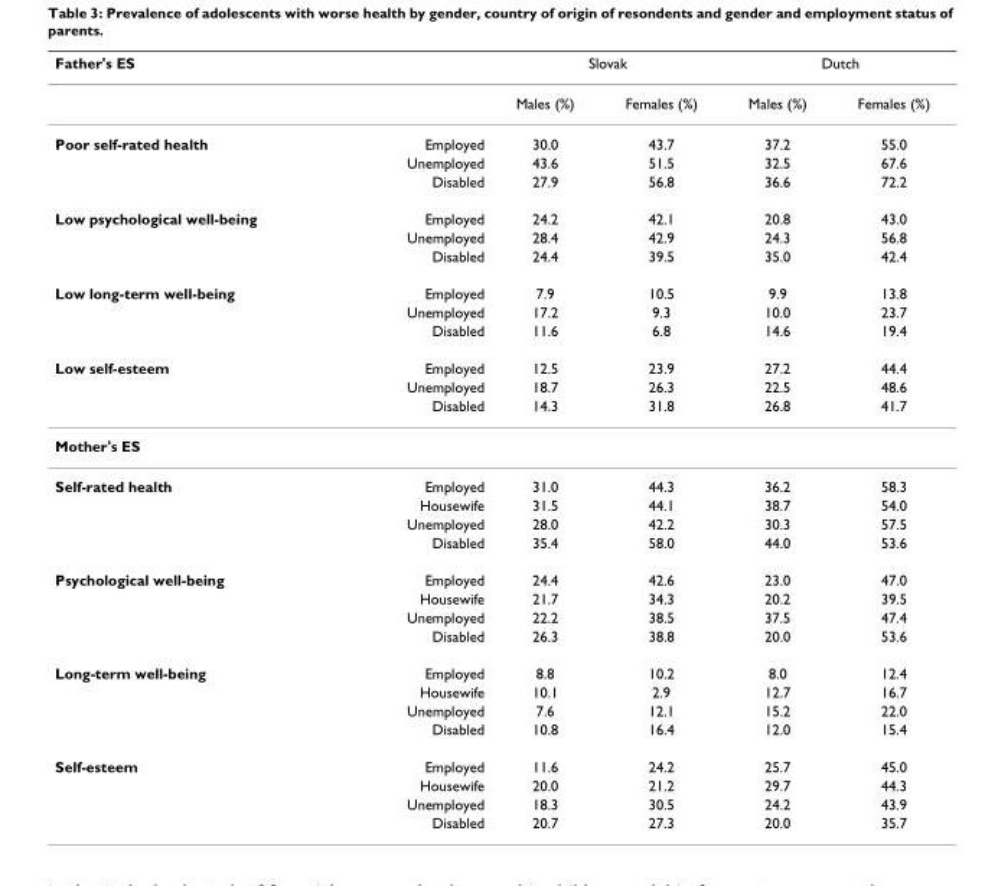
<table><thead><tr><td colspan="2">Father&#x27;s ES</td><td colspan="2">Slovak</td><td colspan="2">Dutch</td></tr><tr><td></td><td></td><td>Males (%)</td><td>Females (%)</td><td>Males (%)</td><td>Females (%)</td></tr></thead><tbody><tr><td rowspan="3">Poor self-rated health</td><td>Employed</td><td>30.0</td><td>43.7</td><td>37.2</td><td>55.0</td></tr><tr><td>Unemployed</td><td>43.6</td><td>51.5</td><td>32.5</td><td>67.6</td></tr><tr><td>Disabled</td><td>27.9</td><td>56.8</td><td>36.6</td><td>72.2</td></tr><tr><td rowspan="3">Low psychological well-being</td><td>Employed</td><td>24.2</td><td>42.1</td><td>20.8</td><td>43.0</td></tr><tr><td>Unemployed</td><td>28.4</td><td>42.9</td><td>24.3</td><td>56.8</td></tr><tr><td>Disabled</td><td>24.4</td><td>39.5</td><td>35.0</td><td>42.4</td></tr><tr><td rowspan="3">Low long-term well-being</td><td>Employed</td><td>7.9</td><td>10.5</td><td>9.9</td><td>13.8</td></tr><tr><td>Unemployed</td><td>17.2</td><td>9.3</td><td>10.0</td><td>23.7</td></tr><tr><td>Disabled</td><td>11.6</td><td>6.8</td><td>14.6</td><td>19.4</td></tr><tr><td rowspan="3">Low self-esteem</td><td>Employed</td><td>12.5</td><td>23.9</td><td>27.2</td><td>44.4</td></tr><tr><td>Unemployed</td><td>18.7</td><td>26.3</td><td>22.5</td><td>48.6</td></tr><tr><td>Disabled</td><td>14.3</td><td>31.8</td><td>26.8</td><td>41.7</td></tr><tr><td colspan="6">Mother&#x27;s ES</td></tr><tr><td rowspan="4">Self-rated health</td><td>Employed</td><td>31.0</td><td>44.3</td><td>36.2</td><td>58.3</td></tr><tr><td>Housewife</td><td>31.5</td><td>44.1</td><td>38.7</td><td>54.0</td></tr><tr><td>Unemployed</td><td>28.0</td><td>42.2</td><td>30.3</td><td>57.5</td></tr><tr><td>Disabled</td><td>35.4</td><td>58.0</td><td>44.0</td><td>53.6</td></tr><tr><td rowspan="4">Psychological well-being</td><td>Employed</td><td>24.4</td><td>42.6</td><td>23.0</td><td>47.0</td></tr><tr><td>Housewife</td><td>21.7</td><td>34.3</td><td>20.2</td><td>39.5</td></tr><tr><td>Unemployed</td><td>22.2</td><td>38.5</td><td>37.5</td><td>47.4</td></tr><tr><td>Disabled</td><td>26.3</td><td>38.8</td><td>20.0</td><td>53.6</td></tr><tr><td rowspan="4">Long-term well-being</td><td>Employed</td><td>8.8</td><td>10.2</td><td>8.0</td><td>12.4</td></tr><tr><td>Housewife</td><td>10.1</td><td>2.9</td><td>12.7</td><td>16.7</td></tr><tr><td>Unemployed</td><td>7.6</td><td>12.1</td><td>15.2</td><td>22.0</td></tr><tr><td>Disabled</td><td>10.8</td><td>16.4</td><td>12.0</td><td>15.4</td></tr><tr><td rowspan="4">Self-esteem</td><td>Employed</td><td>11.6</td><td>24.2</td><td>25.7</td><td>45.0</td></tr><tr><td>Housewife</td><td>20.0</td><td>21.2</td><td>29.7</td><td>44.3</td></tr><tr><td>Unemployed</td><td>18.3</td><td>30.5</td><td>24.2</td><td>43.9</td></tr><tr><td>Disabled</td><td>20.7</td><td>27.3</td><td>20.0</td><td>35.7</td></tr></tbody></table>